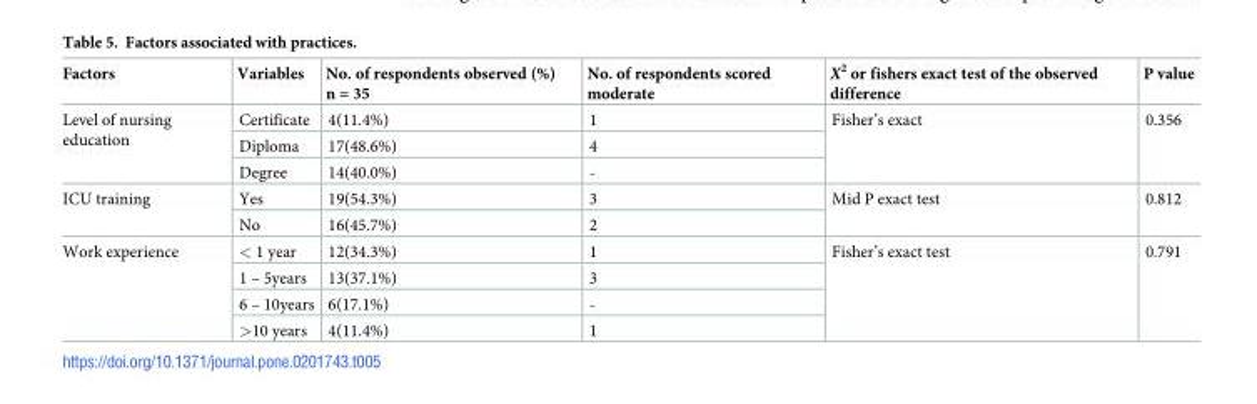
<table><thead><tr><td>Factors</td><td>Variables</td><td>No. of respondents observed (%) n = 35</td><td>No. of respondents scored moderate</td><td>X<sup>2</sup> or fishers exact test of the observed difference</td><td>P value</td></tr></thead><tbody><tr><td rowspan="3">Level of nursing education</td><td>Certificate</td><td>4(11.4%)</td><td>1</td><td rowspan="3">Fisher’s exact</td><td rowspan="3">0.356</td></tr><tr><td>Diploma</td><td>17(48.6%)</td><td>4</td></tr><tr><td>Degree</td><td>14(40.0%)</td><td>-</td></tr><tr><td rowspan="2">ICU training</td><td>Yes</td><td>19(54.3%)</td><td>3</td><td rowspan="2">Mid P exact test</td><td rowspan="2">0.812</td></tr><tr><td>No</td><td>16(45.7%)</td><td>2</td></tr><tr><td rowspan="4">Work experience</td><td>&lt; 1 year</td><td>12(34.3%)</td><td>1</td><td rowspan="4">Fisher’s exact test</td><td rowspan="4">0.791</td></tr><tr><td>1 – 5years</td><td>13(37.1%)</td><td>3</td></tr><tr><td>6 – 10years</td><td>6(17.1%)</td><td>-</td></tr><tr><td>&gt;10 years</td><td>4(11.4%)</td><td>1</td></tr></tbody></table>